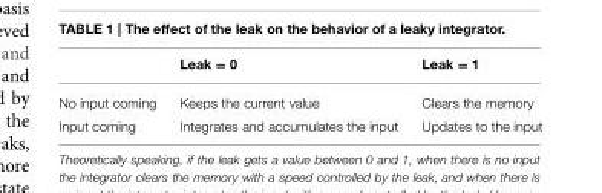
<table><thead><tr><td></td><td>Leak = 0</td><td>Leak = 1</td></tr></thead><tbody><tr><td>No input coming</td><td>Keeps the current value</td><td>Clears the memory</td></tr><tr><td>Input coming</td><td>Integrates and accumulates the input</td><td>Updates to the input</td></tr></tbody></table>